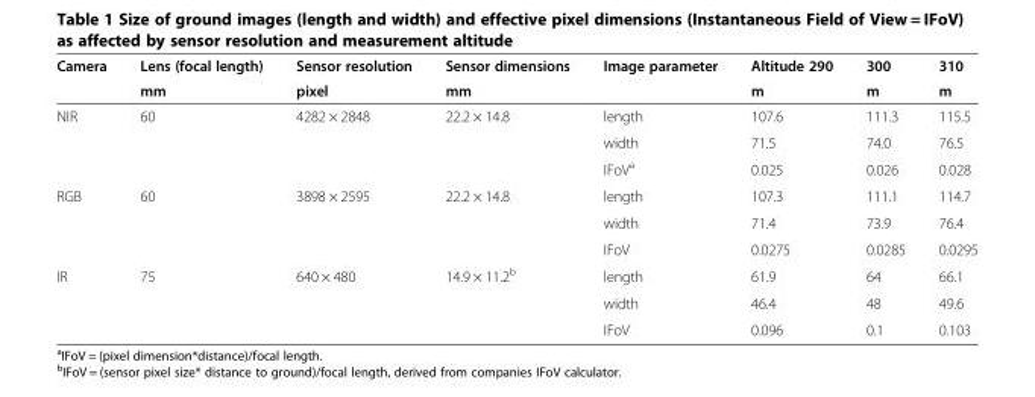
<table><thead><tr><td rowspan="2">Camera</td><td rowspan="2">Lens (focal length) mm</td><td rowspan="2">Sensor resolution pixel</td><td rowspan="2">Sensor dimensions mm</td><td rowspan="2">Image parameter</td><td rowspan="2">Altitude 290 m</td><td rowspan="2">300 m</td><td rowspan="2">310 m</td></tr><tr></tr></thead><tbody><tr><td rowspan="3">NIR</td><td>60</td><td>4282 × 2848</td><td>22.2 × 14.8</td><td>length</td><td>107.6</td><td>111.3</td><td>115.5</td></tr><tr><td></td><td></td><td></td><td>width</td><td>71.5</td><td>74.0</td><td>76.5</td></tr><tr><td></td><td></td><td></td><td>IFoV<sup>a</sup></td><td>0.025</td><td>0.026</td><td>0.028</td></tr><tr><td rowspan="3">RGB</td><td>60</td><td>3898 × 2595</td><td>22.2 × 14.8</td><td>length</td><td>107.3</td><td>111.1</td><td>114.7</td></tr><tr><td></td><td></td><td></td><td>width</td><td>71.4</td><td>73.9</td><td>76.4</td></tr><tr><td></td><td></td><td></td><td>IFoV</td><td>0.0275</td><td>0.0285</td><td>0.0295</td></tr><tr><td rowspan="3">IR</td><td>75</td><td>640 × 480</td><td>14.9 × 11.2<sup>b</sup></td><td>length</td><td>61.9</td><td>64</td><td>66.1</td></tr><tr><td></td><td></td><td></td><td>width</td><td>46.4</td><td>48</td><td>49.6</td></tr><tr><td></td><td></td><td></td><td>IFoV</td><td>0.096</td><td>0.1</td><td>0.103</td></tr></tbody></table>